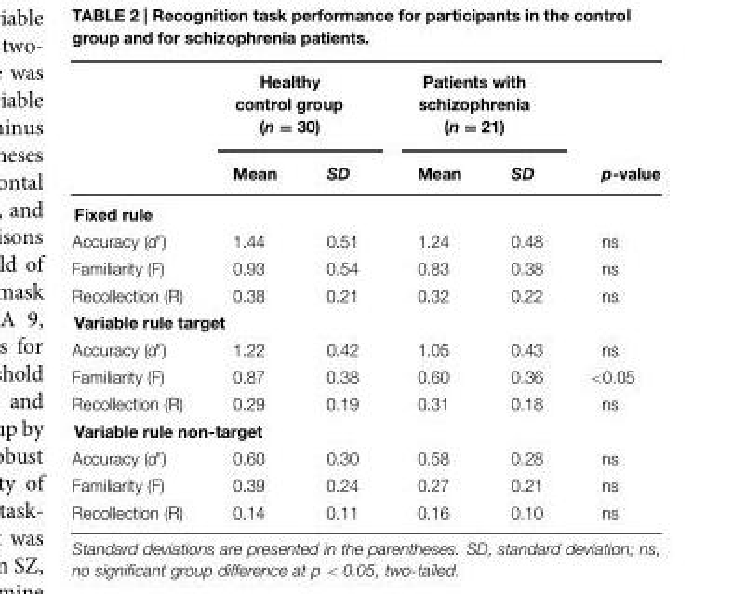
<table><thead><tr><td rowspan="2"></td><td colspan="2">Healthy control group (n = 30)</td><td colspan="2">Patients with schizophrenia (n = 21)</td><td rowspan="2">p-value</td></tr><tr><td>Mean</td><td>SD</td><td>Mean</td><td>SD</td></tr></thead><tbody><tr><td colspan="6">Fixed rule</td></tr><tr><td>Accuracy (d′)</td><td>1.44</td><td>0.51</td><td>1.24</td><td>0.48</td><td>ns</td></tr><tr><td>Familiarity (F)</td><td>0.93</td><td>0.54</td><td>0.83</td><td>0.38</td><td>ns</td></tr><tr><td>Recollection (R)</td><td>0.38</td><td>0.21</td><td>0.32</td><td>0.22</td><td>ns</td></tr><tr><td colspan="6">Variable rule target</td></tr><tr><td>Accuracy (d′)</td><td>1.22</td><td>0.42</td><td>1.05</td><td>0.43</td><td>ns</td></tr><tr><td>Familiarity (F)</td><td>0.87</td><td>0.38</td><td>0.60</td><td>0.36</td><td>&lt;0.05</td></tr><tr><td>Recollection (R)</td><td>0.29</td><td>0.19</td><td>0.31</td><td>0.18</td><td>ns</td></tr><tr><td colspan="6">Variable rule non-target</td></tr><tr><td>Accuracy (d′)</td><td>0.60</td><td>0.30</td><td>0.58</td><td>0.28</td><td>ns</td></tr><tr><td>Familiarity (F)</td><td>0.39</td><td>0.24</td><td>0.27</td><td>0.21</td><td>ns</td></tr><tr><td>Recollection (R)</td><td>0.14</td><td>0.11</td><td>0.16</td><td>0.10</td><td>ns</td></tr></tbody></table>